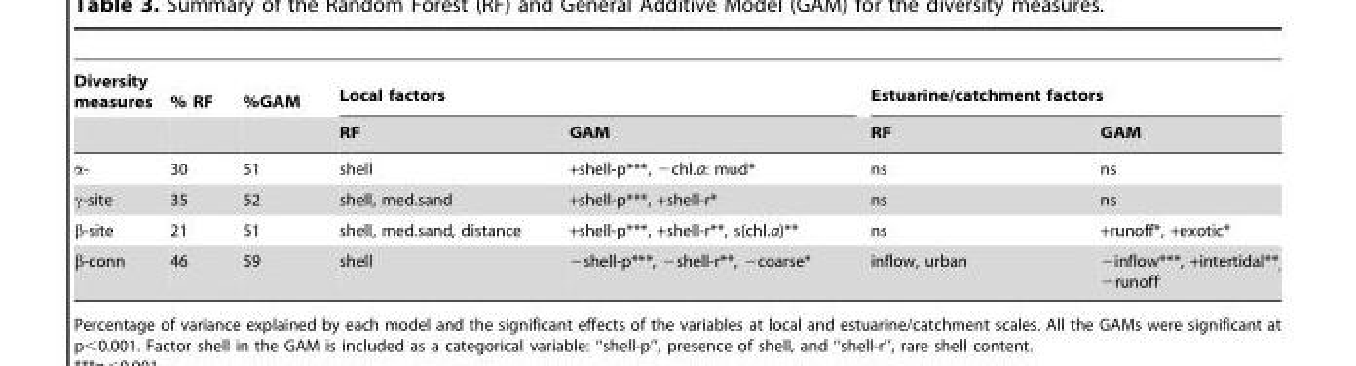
<table><thead><tr><td rowspan="2">Diversity measures</td><td rowspan="2">% RF</td><td rowspan="2">%GAM</td><td colspan="2">Local factors</td><td colspan="2">Estuarine/catchment factors</td></tr><tr><td>RF</td><td>GAM</td><td>RF</td><td>GAM</td></tr></thead><tbody><tr><td>α-</td><td>30</td><td>51</td><td>shell</td><td>+shell-p***, −chl.a: mud*</td><td>ns</td><td>ns</td></tr><tr><td>γ-site</td><td>35</td><td>52</td><td>shell, med.sand</td><td>+shell-p***, +shell-r*</td><td>ns</td><td>ns</td></tr><tr><td>β-site</td><td>21</td><td>51</td><td>shell, med.sand, distance</td><td>+shell-p***, +shell-r**, s(chl.a)**</td><td>ns</td><td>+runoff*, +exotic*</td></tr><tr><td>β-conn</td><td>46</td><td>59</td><td>shell</td><td>−shell-p***, −shell-r**, −coarse*</td><td>inflow, urban</td><td>−inflow***, +intertidal**<sub>,</sub> −runoff<sup>.</sup></td></tr></tbody></table>